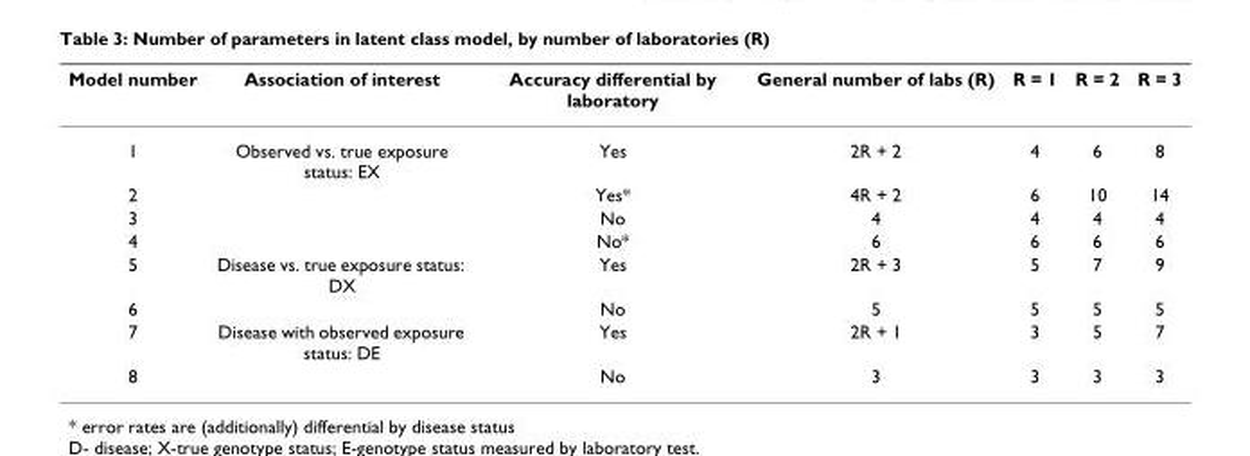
<table><thead><tr><td>Model number</td><td>Association of interest</td><td>Accuracy differential by laboratory</td><td>General number of labs (R)</td><td>R = 1</td><td>R = 2</td><td>R = 3</td></tr></thead><tbody><tr><td>1</td><td>Observed vs. true exposure status: EX</td><td>Yes</td><td>2R + 2</td><td>4</td><td>6</td><td>8</td></tr><tr><td>2</td><td></td><td>Yes*</td><td>4R + 2</td><td>6</td><td>10</td><td>14</td></tr><tr><td>3</td><td></td><td>No</td><td>4</td><td>4</td><td>4</td><td>4</td></tr><tr><td>4</td><td></td><td>No*</td><td>6</td><td>6</td><td>6</td><td>6</td></tr><tr><td>5</td><td>Disease vs. true exposure status: DX</td><td>Yes</td><td>2R + 3</td><td>5</td><td>7</td><td>9</td></tr><tr><td>6</td><td></td><td>No</td><td>5</td><td>5</td><td>5</td><td>5</td></tr><tr><td>7</td><td>Disease with observed exposure status: DE</td><td>Yes</td><td>2R + 1</td><td>3</td><td>5</td><td>7</td></tr><tr><td>8</td><td></td><td>No</td><td>3</td><td>3</td><td>3</td><td>3</td></tr></tbody></table>